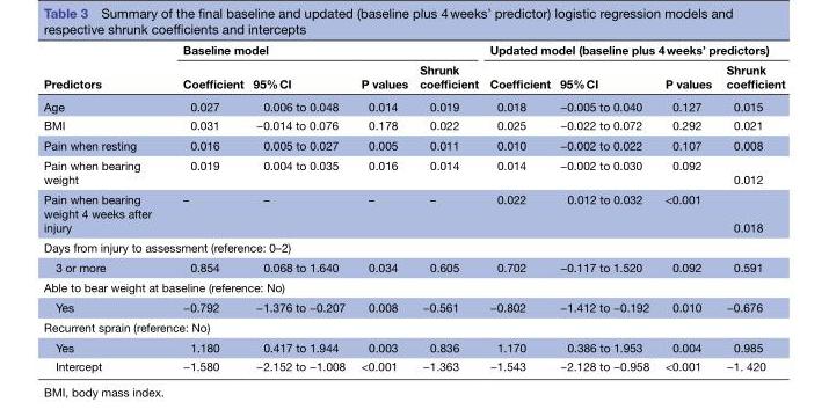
<table><thead><tr><td rowspan="2">Predictors</td><td colspan="4">Baseline model</td><td colspan="4">Updated model (baseline plus 4 weeks’ predictors)</td></tr><tr><td>Coefficient</td><td>95% CI</td><td>P values</td><td>Shrunk coefficient</td><td>Coefficient</td><td>95% CI</td><td>P values</td><td>Shrunk coefficient</td></tr></thead><tbody><tr><td>Age</td><td>0.027</td><td>0.006 to 0.048</td><td>0.014</td><td>0.019</td><td>0.018</td><td>−0.005 to 0.040</td><td>0.127</td><td>0.015</td></tr><tr><td>BMI</td><td>0.031</td><td>−0.014 to 0.076</td><td>0.178</td><td>0.022</td><td>0.025</td><td>−0.022 to 0.072</td><td>0.292</td><td>0.021</td></tr><tr><td>Pain when resting</td><td>0.016</td><td>0.005 to 0.027</td><td>0.005</td><td>0.011</td><td>0.010</td><td>−0.002 to 0.022</td><td>0.107</td><td>0.008</td></tr><tr><td>Pain when bearing weight</td><td>0.019</td><td>0.004 to 0.035</td><td>0.016</td><td>0.014</td><td>0.014</td><td>−0.002 to 0.030</td><td>0.092</td><td>0.012</td></tr><tr><td>Pain when bearing weight 4 weeks after injury</td><td>–</td><td>–</td><td>–</td><td>–</td><td>0.022</td><td>0.012 to 0.032</td><td>&lt;0.001</td><td>0.018</td></tr><tr><td colspan="9">Days from injury to assessment (reference: 0–2)</td></tr><tr><td>3 or more</td><td>0.854</td><td>0.068 to 1.640</td><td>0.034</td><td>0.605</td><td>0.702</td><td>−0.117 to 1.520</td><td>0.092</td><td>0.591</td></tr><tr><td colspan="9">Able to bear weight at baseline (reference: No)</td></tr><tr><td>Yes</td><td>−0.792</td><td>−1.376 to −0.207</td><td>0.008</td><td>−0.561</td><td>−0.802</td><td>−1.412 to −0.192</td><td>0.010</td><td>−0.676</td></tr><tr><td colspan="9">Recurrent sprain (reference: No)</td></tr><tr><td>Yes</td><td>1.180</td><td>0.417 to 1.944</td><td>0.003</td><td>0.836</td><td>1.170</td><td>0.386 to 1.953</td><td>0.004</td><td>0.985</td></tr><tr><td>Intercept</td><td>−1.580</td><td>−2.152 to −1.008</td><td>&lt;0.001</td><td>−1.363</td><td>−1.543</td><td>−2.128 to −0.958</td><td>&lt;0.001</td><td>−1. 420</td></tr></tbody></table>